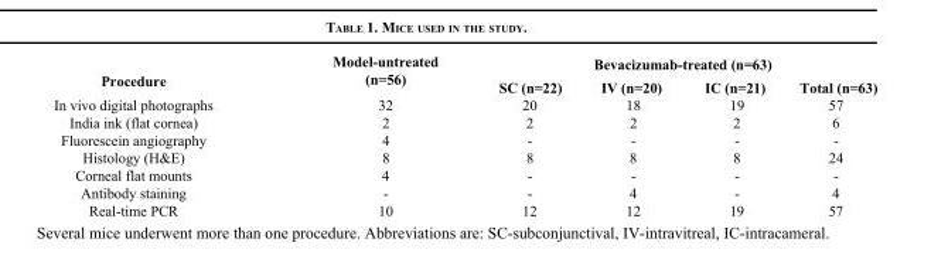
<table><thead><tr><td rowspan="2">Procedure</td><td rowspan="2">Model-untreated (n=56)</td><td colspan="4">Bevacizumab-treated (n=63)</td></tr><tr><td>SC (n=22)</td><td>IV (n=20)</td><td>IC (n=21)</td><td>Total (n=63)</td></tr></thead><tbody><tr><td>In vivo digital photographs</td><td>32</td><td>20</td><td>18</td><td>19</td><td>57</td></tr><tr><td>India ink (flat cornea)</td><td>2</td><td>2</td><td>2</td><td>2</td><td>6</td></tr><tr><td>Fluorescein angiography</td><td>4</td><td>-</td><td>-</td><td>-</td><td>-</td></tr><tr><td>Histology (H&amp;E)</td><td>8</td><td>8</td><td>8</td><td>8</td><td>24</td></tr><tr><td>Corneal flat mounts</td><td>4</td><td>-</td><td>-</td><td>-</td><td>-</td></tr><tr><td>Antibody staining</td><td>-</td><td>-</td><td>4</td><td>-</td><td>4</td></tr><tr><td>Real-time PCR</td><td>10</td><td>12</td><td>12</td><td>19</td><td>57</td></tr></tbody></table>